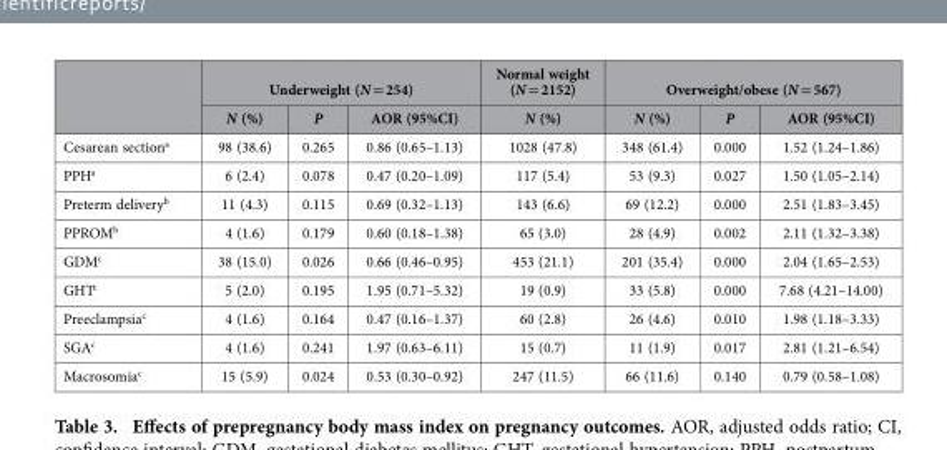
<table><thead><tr><td rowspan="2"></td><td colspan="3">Underweight (N = 254)</td><td rowspan="2">Normal weight (N = 2152) N (%)</td><td colspan="3">Overweight/obese (N = 567)</td></tr><tr><td>N (%)</td><td>P</td><td>AOR (95%CI)</td><td>N (%)</td><td>P</td><td>AOR (95%CI)</td></tr></thead><tbody><tr><td>Cesarean section<sup>a</sup></td><td>98 (38.6)</td><td>0.265</td><td>0.86 (0.65–1.13)</td><td>1028 (47.8)</td><td>348 (61.4)</td><td>0.000</td><td>1.52 (1.24–1.86)</td></tr><tr><td>PPH<sup>a</sup></td><td>6 (2.4)</td><td>0.078</td><td>0.47 (0.20–1.09)</td><td>117 (5.4)</td><td>53 (9.3)</td><td>0.027</td><td>1.50 (1.05–2.14)</td></tr><tr><td>Preterm delivery<sup>b</sup></td><td>11 (4.3)</td><td>0.115</td><td>0.69 (0.32–1.13)</td><td>143 (6.6)</td><td>69 (12.2)</td><td>0.000</td><td>2.51 (1.83–3.45)</td></tr><tr><td>PPROM<sup>b</sup></td><td>4 (1.6)</td><td>0.179</td><td>0.60 (0.18–1.38)</td><td>65 (3.0)</td><td>28 (4.9)</td><td>0.002</td><td>2.11 (1.32–3.38)</td></tr><tr><td>GDM<sup>c</sup></td><td>38 (15.0)</td><td>0.026</td><td>0.66 (0.46–0.95)</td><td>453 (21.1)</td><td>201 (35.4)</td><td>0.000</td><td>2.04 (1.65–2.53)</td></tr><tr><td>GHT<sup>c</sup></td><td>5 (2.0)</td><td>0.195</td><td>1.95 (0.71–5.32)</td><td>19 (0.9)</td><td>33 (5.8)</td><td>0.000</td><td>7.68 (4.21–14.00)</td></tr><tr><td>Preeclampsia<sup>c</sup></td><td>4 (1.6)</td><td>0.164</td><td>0.47 (0.16–1.37)</td><td>60 (2.8)</td><td>26 (4.6)</td><td>0.010</td><td>1.98 (1.18–3.33)</td></tr><tr><td>SGA<sup>c</sup></td><td>4 (1.6)</td><td>0.241</td><td>1.97 (0.63–6.11)</td><td>15 (0.7)</td><td>11 (1.9)</td><td>0.017</td><td>2.81 (1.21–6.54)</td></tr><tr><td>Macrosomia<sup>c</sup></td><td>15 (5.9)</td><td>0.024</td><td>0.53 (0.30–0.92)</td><td>247 (11.5)</td><td>66 (11.6)</td><td>0.140</td><td>0.79 (0.58–1.08)</td></tr></tbody></table>